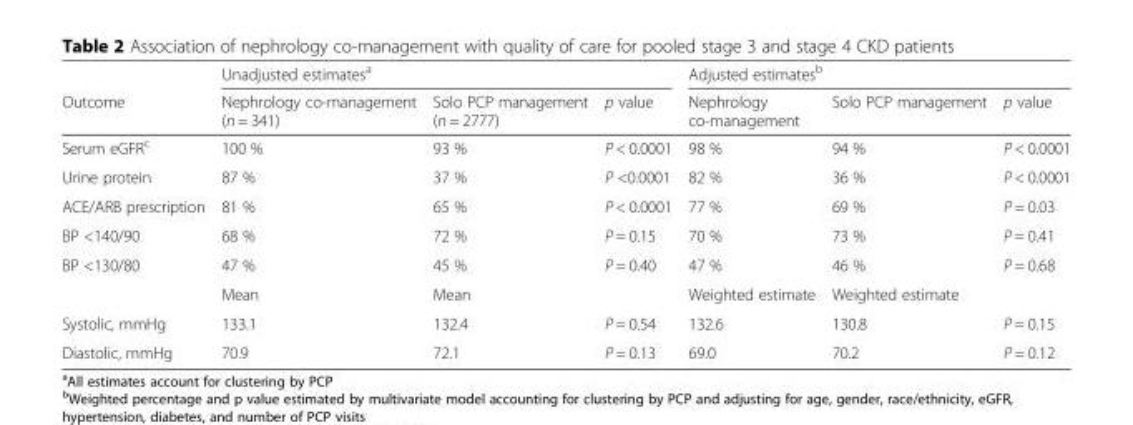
<table><thead><tr><td rowspan="2">Outcome</td><td colspan="3">Unadjusted estimates<sup>a</sup></td><td colspan="3">Adjusted estimates<sup>b</sup></td></tr><tr><td>Nephrology co-management (n = 341)</td><td>Solo PCP management (n = 2777)</td><td>p value</td><td>Nephrology co-management</td><td>Solo PCP management</td><td>p value</td></tr></thead><tbody><tr><td>Serum eGFR<sup>c</sup></td><td>100 %</td><td>93 %</td><td>P &lt; 0.0001</td><td>98 %</td><td>94 %</td><td>P &lt; 0.0001</td></tr><tr><td>Urine protein</td><td>87 %</td><td>37 %</td><td>P &lt;0.0001</td><td>82 %</td><td>36 %</td><td>P &lt; 0.0001</td></tr><tr><td>ACE/ARB prescription</td><td>81 %</td><td>65 %</td><td>P &lt; 0.0001</td><td>77 %</td><td>69 %</td><td>P = 0.03</td></tr><tr><td>BP &lt;140/90</td><td>68 %</td><td>72 %</td><td>P = 0.15</td><td>70 %</td><td>73 %</td><td>P = 0.41</td></tr><tr><td rowspan="2">BP &lt;130/80</td><td>47 %</td><td>45 %</td><td>P = 0.40</td><td>47 %</td><td>46 %</td><td>P = 0.68</td></tr><tr><td>Mean</td><td>Mean</td><td></td><td>Weighted estimate</td><td>Weighted estimate</td><td></td></tr><tr><td>Systolic, mmHg</td><td>133.1</td><td>132.4</td><td>P = 0.54</td><td>132.6</td><td>130.8</td><td>P = 0.15</td></tr><tr><td>Diastolic, mmHg</td><td>70.9</td><td>72.1</td><td>P = 0.13</td><td>69.0</td><td>70.2</td><td>P = 0.12</td></tr></tbody></table>